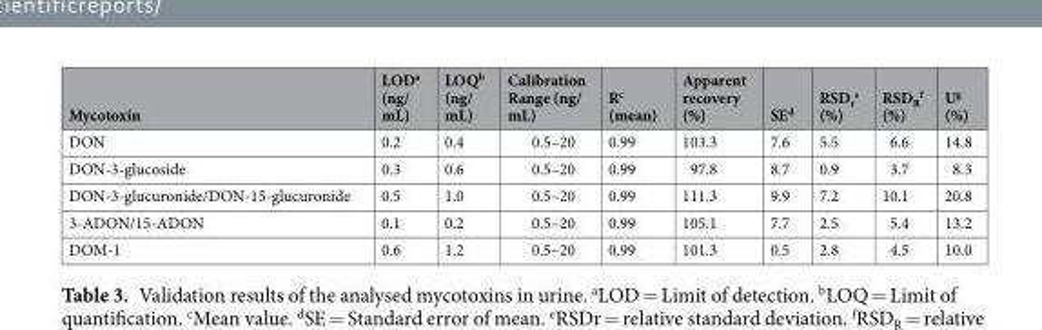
<table><thead><tr><td>Mycotoxin</td><td>LOD<sup>a</sup> (ng/ mL)</td><td>LOQ<sup>b</sup> (ng/ mL)</td><td>Calibration Range (ng/ mL)</td><td>R<sup>c</sup> (mean)</td><td>Apparent recovery (%)</td><td>SE<sup>d</sup></td><td>RSD<sub>r</sub> <sup>e</sup> (%)</td><td>RSD<sub>R</sub> <sup>f</sup> (%)</td><td>U<sup>g</sup> (%)</td></tr></thead><tbody><tr><td>DON</td><td>0.2</td><td>0.4</td><td>0.5–20</td><td>0.99</td><td>103.3</td><td>7.6</td><td>5.5</td><td>6.6</td><td>14.8</td></tr><tr><td>DON-3-glucoside</td><td>0.3</td><td>0.6</td><td>0.5–20</td><td>0.99</td><td>97.8</td><td>8.7</td><td>0.9</td><td>3.7</td><td>8.3</td></tr><tr><td>DON-3-glucuronide/DON-15-glucuronide</td><td>0.5</td><td>1.0</td><td>0.5–20</td><td>0.99</td><td>111.3</td><td>9.9</td><td>7.2</td><td>10.1</td><td>20.8</td></tr><tr><td>3-ADON/15-ADON</td><td>0.1</td><td>0.2</td><td>0.5–20</td><td>0.99</td><td>105.1</td><td>7.7</td><td>2.5</td><td>5.4</td><td>13.2</td></tr><tr><td>DOM-1</td><td>0.6</td><td>1.2</td><td>0.5–20</td><td>0.99</td><td>101.3</td><td>0.5</td><td>2.8</td><td>4.5</td><td>10.0</td></tr></tbody></table>